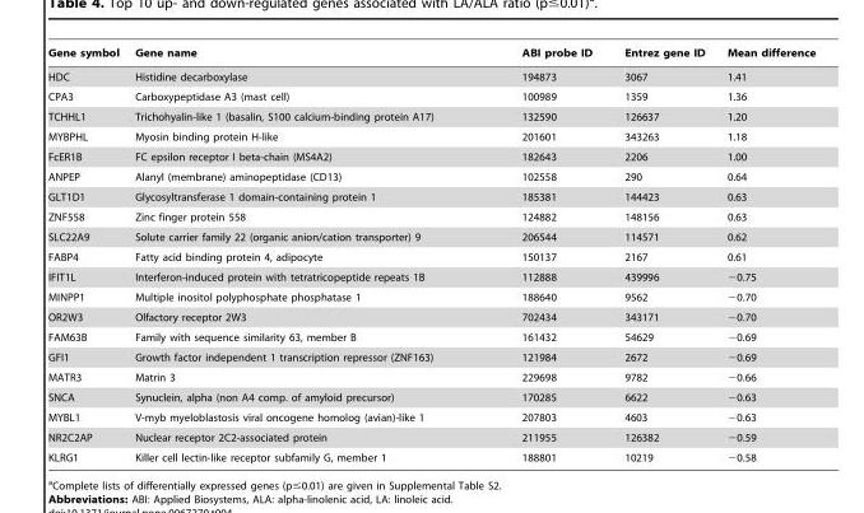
<table><thead><tr><td>Gene symbol</td><td>Gene name</td><td>ABI probe ID</td><td>Entrez gene ID</td><td>Mean difference</td></tr></thead><tbody><tr><td>HDC</td><td>Histidine decarboxylase</td><td>194873</td><td>3067</td><td>1.41</td></tr><tr><td>CPA3</td><td>Carboxypeptidase A3 (mast cell)</td><td>100989</td><td>1359</td><td>1.36</td></tr><tr><td>TCHHL1</td><td>Trichohyalin-like 1 (basalin, S100 calcium-binding protein A17)</td><td>132590</td><td>126637</td><td>1.20</td></tr><tr><td>MYBPHL</td><td>Myosin binding protein H-like</td><td>201601</td><td>343263</td><td>1.18</td></tr><tr><td>FcER1B</td><td>FC epsilon receptor I beta-chain (MS4A2)</td><td>182643</td><td>2206</td><td>1.00</td></tr><tr><td>ANPEP</td><td>Alanyl (membrane) aminopeptidase (CD13)</td><td>102558</td><td>290</td><td>0.64</td></tr><tr><td>GLT1D1</td><td>Glycosyltransferase 1 domain-containing protein 1</td><td>185381</td><td>144423</td><td>0.63</td></tr><tr><td>ZNF558</td><td>Zinc finger protein 558</td><td>124882</td><td>148156</td><td>0.63</td></tr><tr><td>SLC22A9</td><td>Solute carrier family 22 (organic anion/cation transporter) 9</td><td>206544</td><td>114571</td><td>0.62</td></tr><tr><td>FABP4</td><td>Fatty acid binding protein 4, adipocyte</td><td>150137</td><td>2167</td><td>0.61</td></tr><tr><td>IFIT1L</td><td>Interferon-induced protein with tetratricopeptide repeats 1B</td><td>112888</td><td>439996</td><td>−0.75</td></tr><tr><td>MINPP1</td><td>Multiple inositol polyphosphate phosphatase 1</td><td>188640</td><td>9562</td><td>−0.70</td></tr><tr><td>OR2W3</td><td>Olfactory receptor 2W3</td><td>702434</td><td>343171</td><td>−0.70</td></tr><tr><td>FAM63B</td><td>Family with sequence similarity 63, member B</td><td>161432</td><td>54629</td><td>−0.69</td></tr><tr><td>GFI1</td><td>Growth factor independent 1 transcription repressor (ZNF163)</td><td>121984</td><td>2672</td><td>−0.69</td></tr><tr><td>MATR3</td><td>Matrin 3</td><td>229698</td><td>9782</td><td>−0.66</td></tr><tr><td>SNCA</td><td>Synuclein, alpha (non A4 comp. of amyloid precursor)</td><td>170285</td><td>6622</td><td>−0.63</td></tr><tr><td>MYBL1</td><td>V-myb myeloblastosis viral oncogene homolog (avian)-like 1</td><td>207803</td><td>4603</td><td>−0.63</td></tr><tr><td>NR2C2AP</td><td>Nuclear receptor 2C2-associated protein</td><td>211955</td><td>126382</td><td>−0.59</td></tr><tr><td>KLRG1</td><td>Killer cell lectin-like receptor subfamily G, member 1</td><td>188801</td><td>10219</td><td>−0.58</td></tr></tbody></table>